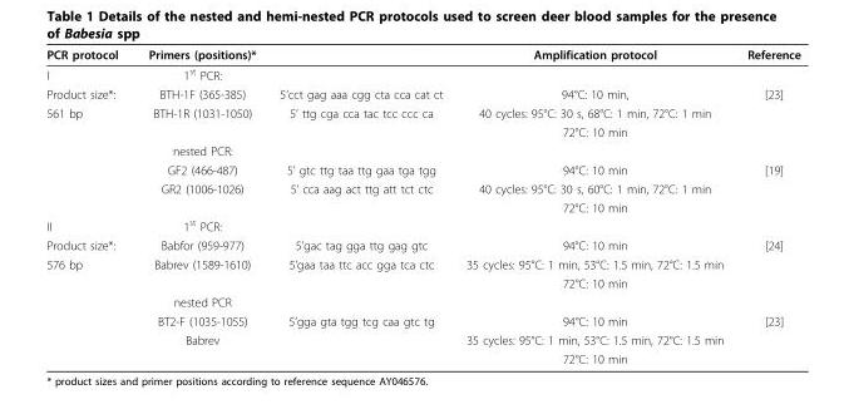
<table><thead><tr><td>PCR protocol</td><td>Primers (positions)*</td><td></td><td>Amplification protocol</td><td>Reference</td></tr></thead><tbody><tr><td>I</td><td>1<sup>st</sup> PCR:</td><td></td><td></td><td></td></tr><tr><td>Product size*:</td><td>BTH-1F (365-385)</td><td>5’cct gag aaa cgg cta cca cat ct</td><td>94°C: 10 min,</td><td>[23]</td></tr><tr><td rowspan="6">561 bp</td><td>BTH-1R (1031-1050)</td><td>5’ ttg cga cca tac tcc ccc ca</td><td>40 cycles: 95°C: 30 s, 68°C: 1 min, 72°C: 1 min</td><td></td></tr><tr><td></td><td></td><td>72°C: 10 min</td><td></td></tr><tr><td>nested PCR:</td><td></td><td></td><td></td></tr><tr><td>GF2 (466-487)</td><td>5’ gtc ttg taa ttg gaa tga tgg</td><td>94°C: 10 min</td><td>[19]</td></tr><tr><td>GR2 (1006-1026)</td><td>5’ cca aag act ttg att tct ctc</td><td>40 cycles: 95°C: 30 s, 60°C: 1 min, 72°C: 1 min</td><td></td></tr><tr><td></td><td></td><td>72°C: 10 min</td><td></td></tr><tr><td>II</td><td>1<sup>st</sup> PCR:</td><td></td><td></td><td></td></tr><tr><td>Product size*:</td><td>Babfor (959-977)</td><td>5’gac tag gga ttg gag gtc</td><td>94°C: 10 min</td><td>[24]</td></tr><tr><td rowspan="6">576 bp</td><td>Babrev (1589-1610)</td><td>5’gaa taa ttc acc gga tca ctc</td><td>35 cycles: 95°C: 1 min, 53°C: 1.5 min, 72°C: 1.5 min</td><td></td></tr><tr><td></td><td></td><td>72°C: 10 min</td><td></td></tr><tr><td>nested PCR</td><td></td><td></td><td></td></tr><tr><td>BT2-F (1035-1055)</td><td>5’gga gta tgg tcg caa gtc tg</td><td>94°C: 10 min</td><td>[23]</td></tr><tr><td>Babrev</td><td></td><td>35 cycles: 95°C: 1 min, 53°C: 1.5 min, 72°C: 1.5 min</td><td></td></tr><tr><td></td><td></td><td>72°C: 10 min</td><td></td></tr></tbody></table>